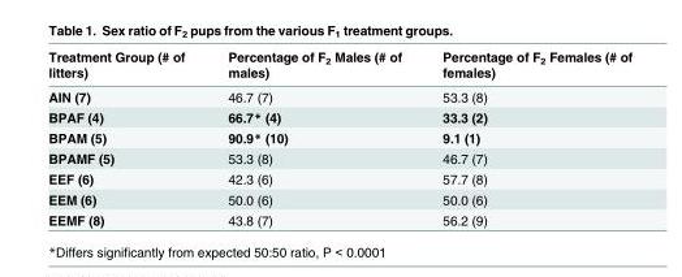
<table><thead><tr><td>Treatment Group (# of litters)</td><td>Percentage of F<sub>2</sub> Males (# of males)</td><td>Percentage of F<sub>2</sub> Females (# of females)</td></tr></thead><tbody><tr><td>AIN (7)</td><td>46.7 (7)</td><td>53.3 (8)</td></tr><tr><td>BPAF (4)</td><td>66.7* (4)</td><td>33.3 (2)</td></tr><tr><td>BPAM (5)</td><td>90.9* (10)</td><td>9.1 (1)</td></tr><tr><td>BPAMF (5)</td><td>53.3 (8)</td><td>46.7 (7)</td></tr><tr><td>EEF (6)</td><td>42.3 (6)</td><td>57.7 (8)</td></tr><tr><td>EEM (6)</td><td>50.0 (6)</td><td>50.0 (6)</td></tr><tr><td>EEMF (8)</td><td>43.8 (7)</td><td>56.2 (9)</td></tr></tbody></table>